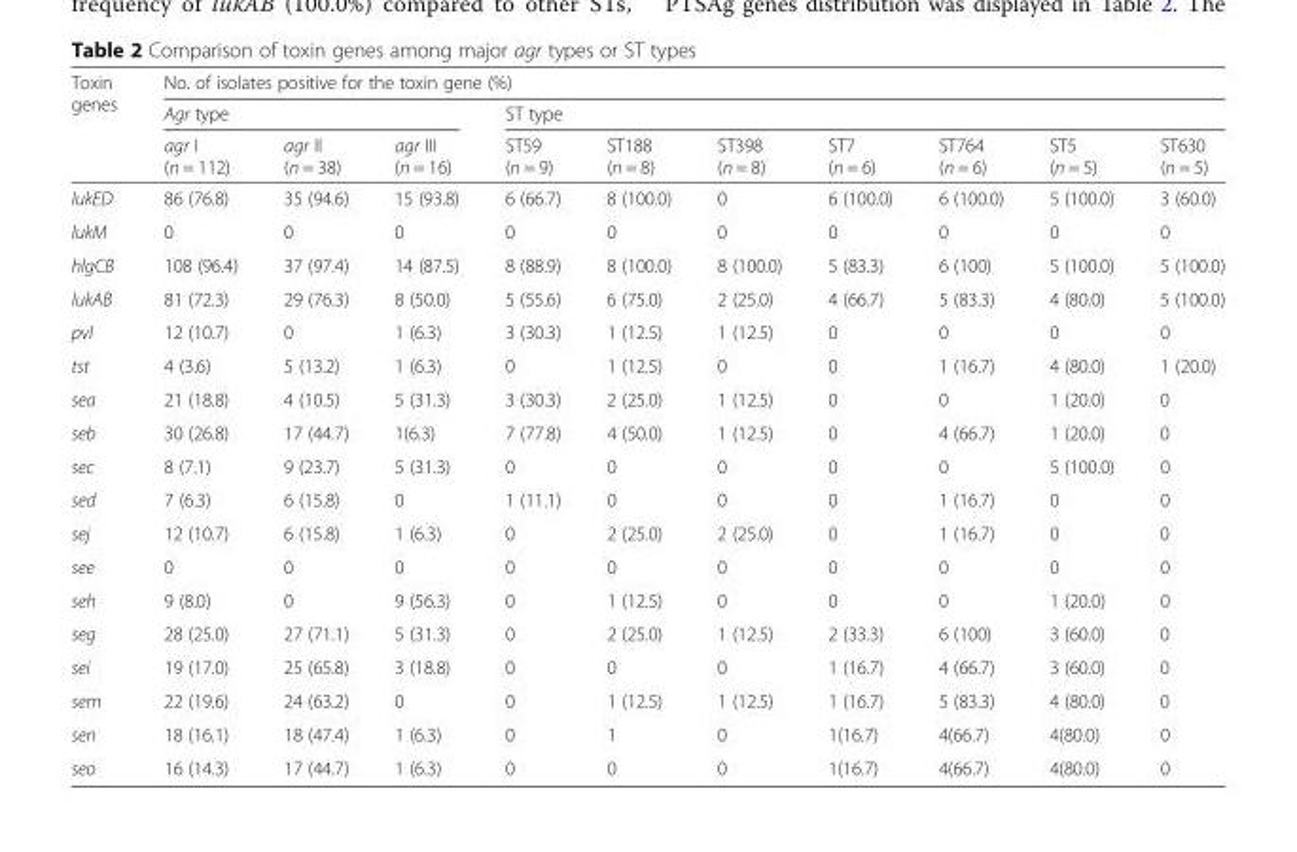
<table><thead><tr><td rowspan="3">Toxin genes</td><td colspan="10">No. of isolates positive for the toxin gene (%)</td></tr><tr><td colspan="3">Agr type</td><td colspan="7">ST type</td></tr><tr><td>agr I (n = 112)</td><td>agr II (n = 38)</td><td>agr III (n = 16)</td><td>ST59 (n = 9)</td><td>ST188 (n = 8)</td><td>ST398 (n = 8)</td><td>ST7 (n = 6)</td><td>ST764 (n = 6)</td><td>ST5 (n = 5)</td><td>ST630 (n = 5)</td></tr></thead><tbody><tr><td>lukED</td><td>86 (76.8)</td><td>35 (94.6)</td><td>15 (93.8)</td><td>6 (66.7)</td><td>8 (100.0)</td><td>0</td><td>6 (100.0)</td><td>6 (100.0)</td><td>5 (100.0)</td><td>3 (60.0)</td></tr><tr><td>lukM</td><td>0</td><td>0</td><td>0</td><td>0</td><td>0</td><td>0</td><td>0</td><td>0</td><td>0</td><td>0</td></tr><tr><td>hlgCB</td><td>108 (96.4)</td><td>37 (97.4)</td><td>14 (87.5)</td><td>8 (88.9)</td><td>8 (100.0)</td><td>8 (100.0)</td><td>5 (83.3)</td><td>6 (100)</td><td>5 (100.0)</td><td>5 (100.0)</td></tr><tr><td>lukAB</td><td>81 (72.3)</td><td>29 (76.3)</td><td>8 (50.0)</td><td>5 (55.6)</td><td>6 (75.0)</td><td>2 (25.0)</td><td>4 (66.7)</td><td>5 (83.3)</td><td>4 (80.0)</td><td>5 (100.0)</td></tr><tr><td>pvl</td><td>12 (10.7)</td><td>0</td><td>1 (6.3)</td><td>3 (30.3)</td><td>1 (12.5)</td><td>1 (12.5)</td><td>0</td><td>0</td><td>0</td><td>0</td></tr><tr><td>tst</td><td>4 (3.6)</td><td>5 (13.2)</td><td>1 (6.3)</td><td>0</td><td>1 (12.5)</td><td>0</td><td>0</td><td>1 (16.7)</td><td>4 (80.0)</td><td>1 (20.0)</td></tr><tr><td>sea</td><td>21 (18.8)</td><td>4 (10.5)</td><td>5 (31.3)</td><td>3 (30.3)</td><td>2 (25.0)</td><td>1 (12.5)</td><td>0</td><td>0</td><td>1 (20.0)</td><td>0</td></tr><tr><td>seb</td><td>30 (26.8)</td><td>17 (44.7)</td><td>1(6.3)</td><td>7 (77.8)</td><td>4 (50.0)</td><td>1 (12.5)</td><td>0</td><td>4 (66.7)</td><td>1 (20.0)</td><td>0</td></tr><tr><td>sec</td><td>8 (7.1)</td><td>9 (23.7)</td><td>5 (31.3)</td><td>0</td><td>0</td><td>0</td><td>0</td><td>0</td><td>5 (100.0)</td><td>0</td></tr><tr><td>sed</td><td>7 (6.3)</td><td>6 (15.8)</td><td>0</td><td>1 (11.1)</td><td>0</td><td>0</td><td>0</td><td>1 (16.7)</td><td>0</td><td>0</td></tr><tr><td>sej</td><td>12 (10.7)</td><td>6 (15.8)</td><td>1 (6.3)</td><td>0</td><td>2 (25.0)</td><td>2 (25.0)</td><td>0</td><td>1 (16.7)</td><td>0</td><td>0</td></tr><tr><td>see</td><td>0</td><td>0</td><td>0</td><td>0</td><td>0</td><td>0</td><td>0</td><td>0</td><td>0</td><td>0</td></tr><tr><td>seh</td><td>9 (8.0)</td><td>0</td><td>9 (56.3)</td><td>0</td><td>1 (12.5)</td><td>0</td><td>0</td><td>0</td><td>1 (20.0)</td><td>0</td></tr><tr><td>seg</td><td>28 (25.0)</td><td>27 (71.1)</td><td>5 (31.3)</td><td>0</td><td>2 (25.0)</td><td>1 (12.5)</td><td>2 (33.3)</td><td>6 (100)</td><td>3 (60.0)</td><td>0</td></tr><tr><td>sei</td><td>19 (17.0)</td><td>25 (65.8)</td><td>3 (18.8)</td><td>0</td><td>0</td><td>0</td><td>1 (16.7)</td><td>4 (66.7)</td><td>3 (60.0)</td><td>0</td></tr><tr><td>sem</td><td>22 (19.6)</td><td>24 (63.2)</td><td>0</td><td>0</td><td>1 (12.5)</td><td>1 (12.5)</td><td>1 (16.7)</td><td>5 (83.3)</td><td>4 (80.0)</td><td>0</td></tr><tr><td>sen</td><td>18 (16.1)</td><td>18 (47.4)</td><td>1 (6.3)</td><td>0</td><td>1</td><td>0</td><td>1(16.7)</td><td>4(66.7)</td><td>4(80.0)</td><td>0</td></tr><tr><td>seo</td><td>16 (14.3)</td><td>17 (44.7)</td><td>1 (6.3)</td><td>0</td><td>0</td><td>0</td><td>1(16.7)</td><td>4(66.7)</td><td>4(80.0)</td><td>0</td></tr></tbody></table>